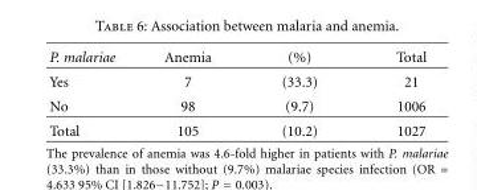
<table><thead><tr><td>P. malariae</td><td>Anemia</td><td>(%)</td><td>Total</td></tr></thead><tbody><tr><td>Yes</td><td>7</td><td>(33.3)</td><td>21</td></tr><tr><td>No</td><td>98</td><td>(9.7)</td><td>1006</td></tr><tr><td>Total</td><td>105</td><td>(10.2)</td><td>1027</td></tr></tbody></table>